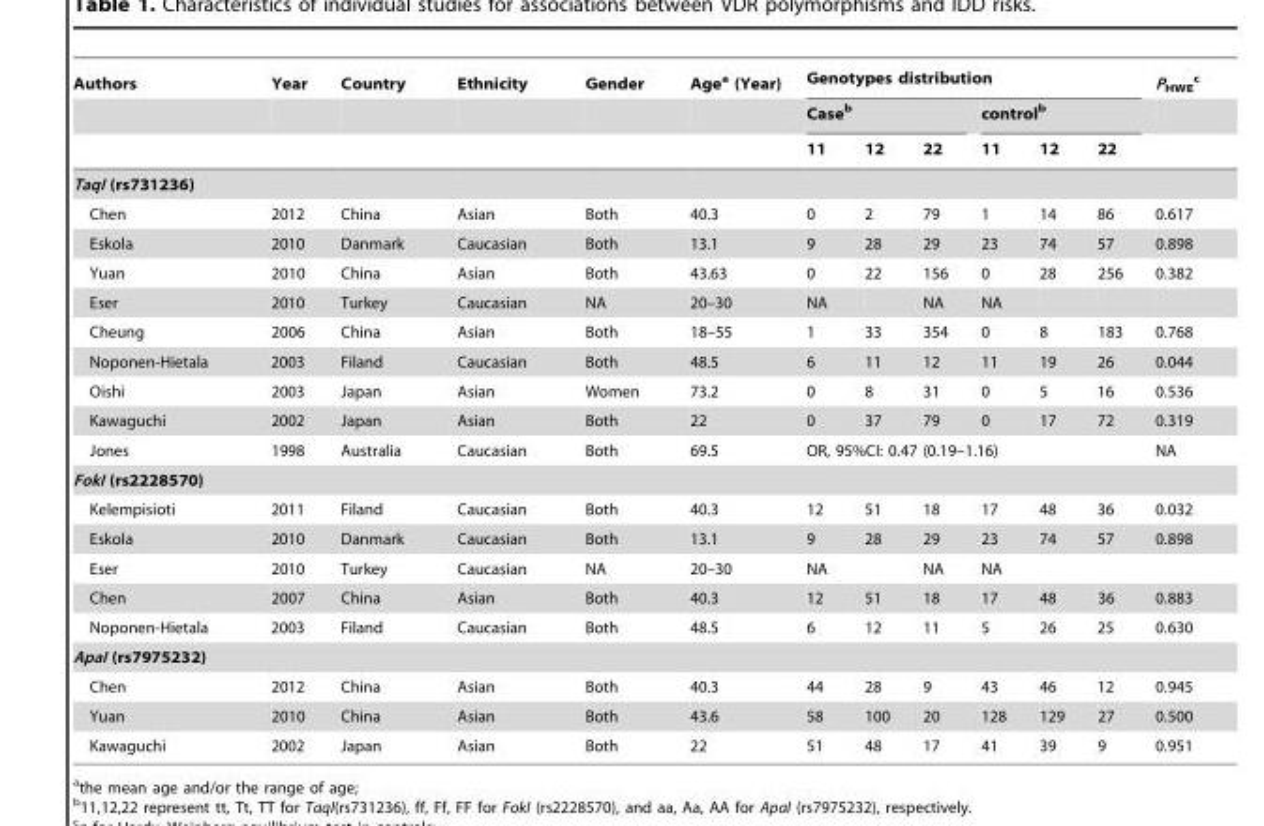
<table><thead><tr><td rowspan="3">Authors</td><td rowspan="3">Year</td><td rowspan="3">Country</td><td rowspan="3">Ethnicity</td><td rowspan="3">Gender</td><td rowspan="3">Age<sup>a</sup> (Year)</td><td colspan="6">Genotypes distribution</td><td rowspan="3">PHWE</td></tr><tr><td colspan="3">Case<sup>b</sup></td><td colspan="3">control<sup>b</sup></td></tr><tr><td>11</td><td>12</td><td>22</td><td>11</td><td>12</td><td>22</td></tr></thead><tbody><tr><td colspan="13">TaqI (rs731236)</td></tr><tr><td>Chen</td><td>2012</td><td>China</td><td>Asian</td><td>Both</td><td>40.3</td><td>0</td><td>2</td><td>79</td><td>1</td><td>14</td><td>86</td><td>0.617</td></tr><tr><td>Eskola</td><td>2010</td><td>Danmark</td><td>Caucasian</td><td>Both</td><td>13.1</td><td>9</td><td>28</td><td>29</td><td>23</td><td>74</td><td>57</td><td>0.898</td></tr><tr><td>Yuan</td><td>2010</td><td>China</td><td>Asian</td><td>Both</td><td>43.63</td><td>0</td><td>22</td><td>156</td><td>0</td><td>28</td><td>256</td><td>0.382</td></tr><tr><td>Eser</td><td>2010</td><td>Turkey</td><td>Caucasian</td><td>NA</td><td>20–30</td><td>NA</td><td></td><td>NA</td><td>NA</td><td></td><td></td><td></td></tr><tr><td>Cheung</td><td>2006</td><td>China</td><td>Asian</td><td>Both</td><td>18–55</td><td>1</td><td>33</td><td>354</td><td>0</td><td>8</td><td>183</td><td>0.768</td></tr><tr><td>Noponen-Hietala</td><td>2003</td><td>Filand</td><td>Caucasian</td><td>Both</td><td>48.5</td><td>6</td><td>11</td><td>12</td><td>11</td><td>19</td><td>26</td><td>0.044</td></tr><tr><td>Oishi</td><td>2003</td><td>Japan</td><td>Asian</td><td>Women</td><td>73.2</td><td>0</td><td>8</td><td>31</td><td>0</td><td>5</td><td>16</td><td>0.536</td></tr><tr><td>Kawaguchi</td><td>2002</td><td>Japan</td><td>Asian</td><td>Both</td><td>22</td><td>0</td><td>37</td><td>79</td><td>0</td><td>17</td><td>72</td><td>0.319</td></tr><tr><td>Jones</td><td>1998</td><td>Australia</td><td>Caucasian</td><td>Both</td><td>69.5</td><td colspan="6">OR, 95%CI: 0.47 (0.19–1.16)</td><td>NA</td></tr><tr><td colspan="13">FokI (rs2228570)</td></tr><tr><td>Kelempisioti</td><td>2011</td><td>Filand</td><td>Caucasian</td><td>Both</td><td>40.3</td><td>12</td><td>51</td><td>18</td><td>17</td><td>48</td><td>36</td><td>0.032</td></tr><tr><td>Eskola</td><td>2010</td><td>Danmark</td><td>Caucasian</td><td>Both</td><td>13.1</td><td>9</td><td>28</td><td>29</td><td>23</td><td>74</td><td>57</td><td>0.898</td></tr><tr><td>Eser</td><td>2010</td><td>Turkey</td><td>Caucasian</td><td>NA</td><td>20–30</td><td>NA</td><td></td><td>NA</td><td>NA</td><td></td><td></td><td></td></tr><tr><td>Chen</td><td>2007</td><td>China</td><td>Asian</td><td>Both</td><td>40.3</td><td>12</td><td>51</td><td>18</td><td>17</td><td>48</td><td>36</td><td>0.883</td></tr><tr><td>Noponen-Hietala</td><td>2003</td><td>Filand</td><td>Caucasian</td><td>Both</td><td>48.5</td><td>6</td><td>12</td><td>11</td><td>5</td><td>26</td><td>25</td><td>0.630</td></tr><tr><td colspan="13">ApaI (rs7975232)</td></tr><tr><td>Chen</td><td>2012</td><td>China</td><td>Asian</td><td>Both</td><td>40.3</td><td>44</td><td>28</td><td>9</td><td>43</td><td>46</td><td>12</td><td>0.945</td></tr><tr><td>Yuan</td><td>2010</td><td>China</td><td>Asian</td><td>Both</td><td>43.6</td><td>58</td><td>100</td><td>20</td><td>128</td><td>129</td><td>27</td><td>0.500</td></tr><tr><td>Kawaguchi</td><td>2002</td><td>Japan</td><td>Asian</td><td>Both</td><td>22</td><td>51</td><td>48</td><td>17</td><td>41</td><td>39</td><td>9</td><td>0.951</td></tr></tbody></table>